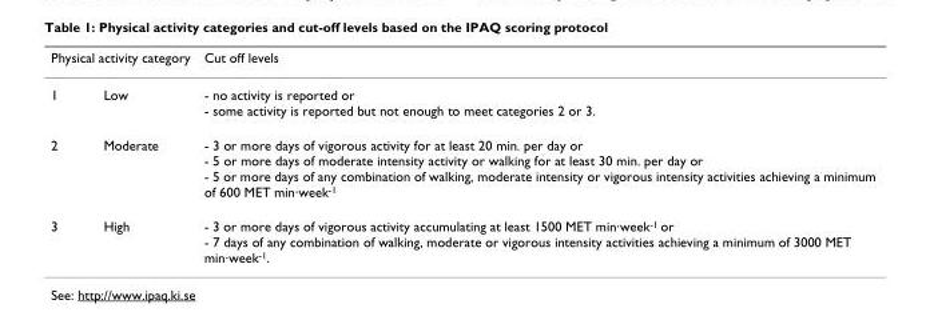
<table><thead><tr><td colspan="2">Physical activity category</td><td rowspan="2">Cut off levels - no activity is reported or - some activity is reported but not enough to meet categories 2 or 3.</td></tr><tr><td>1</td><td>Low</td></tr></thead><tbody><tr><td>2</td><td>Moderate</td><td>- 3 or more days of vigorous activity for at least 20 min. per day or - 5 or more days of moderate intensity activity or walking for at least 30 min. per day or - 5 or more days of any combination of walking, moderate intensity or vigorous intensity activities achieving a minimum of 600 MET min·week<sup>-1</sup></td></tr><tr><td>3</td><td>High</td><td>- 3 or more days of vigorous activity accumulating at least 1500 MET min·week<sup>-1</sup> or - 7 days of any combination of walking, moderate or vigorous intensity activities achieving a minimum of 3000 MET min·week<sup>-1</sup>.</td></tr></tbody></table>